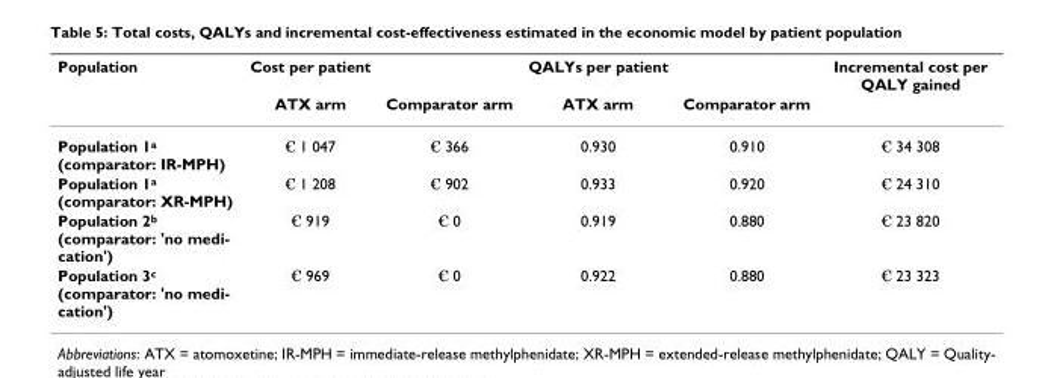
<table><thead><tr><td rowspan="2">Population</td><td rowspan="2">Cost per patient ATX arm</td><td rowspan="2">Comparator arm</td><td rowspan="2">QALYs per patient ATX arm</td><td rowspan="2">Comparator arm</td><td rowspan="2">Incremental cost per QALY gained</td></tr><tr></tr></thead><tbody><tr><td>Population 1<sup>a</sup> (comparator: IR-MPH)</td><td>€ 1 047</td><td>€ 366</td><td>0.930</td><td>0.910</td><td>€ 34 308</td></tr><tr><td>Population 1<sup>a</sup> (comparator: XR-MPH)</td><td>€ 1 208</td><td>€ 902</td><td>0.933</td><td>0.920</td><td>€ 24 310</td></tr><tr><td>Population 2b (comparator: &#x27;no medi- cation&#x27;)</td><td>€ 919</td><td>€ 0</td><td>0.919</td><td>0.880</td><td>€ 23 820</td></tr><tr><td>Population 3c (comparator: &#x27;no medi- cation&#x27;)</td><td>€ 969</td><td>€ 0</td><td>0.922</td><td>0.880</td><td>€ 23 323</td></tr></tbody></table>